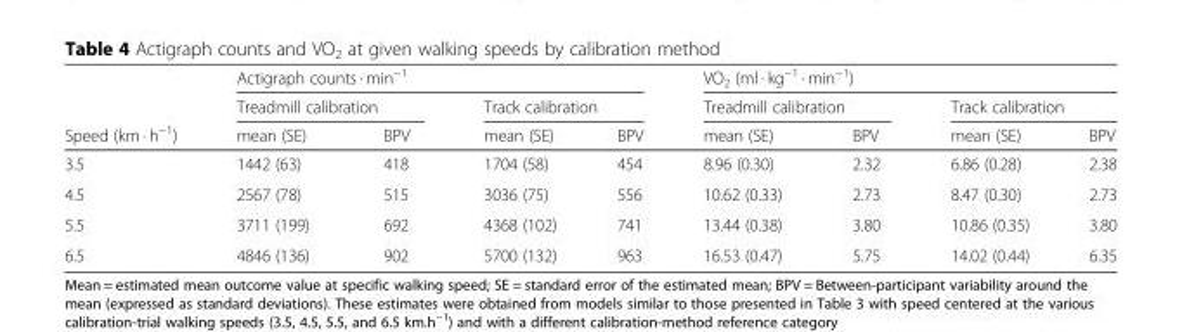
<table><thead><tr><td rowspan="3">Speed (km · h<sup>−1</sup>)</td><td colspan="4">Actigraph counts · min<sup>−1</sup></td><td colspan="4">VO<sub>2</sub> (ml · kg<sup>−1</sup> · min<sup>−1</sup>)</td></tr><tr><td colspan="2">Treadmill calibration</td><td colspan="2">Track calibration</td><td colspan="2">Treadmill calibration</td><td colspan="2">Track calibration</td></tr><tr><td>mean (SE)</td><td>BPV</td><td>mean (SE)</td><td>BPV</td><td>mean (SE)</td><td>BPV</td><td>mean (SE)</td><td>BPV</td></tr></thead><tbody><tr><td>3.5</td><td>1442 (63)</td><td>418</td><td>1704 (58)</td><td>454</td><td>8.96 (0.30)</td><td>2.32</td><td>6.86 (0.28)</td><td>2.38</td></tr><tr><td>4.5</td><td>2567 (78)</td><td>515</td><td>3036 (75)</td><td>556</td><td>10.62 (0.33)</td><td>2.73</td><td>8.47 (0.30)</td><td>2.73</td></tr><tr><td>5.5</td><td>3711 (199)</td><td>692</td><td>4368 (102)</td><td>741</td><td>13.44 (0.38)</td><td>3.80</td><td>10.86 (0.35)</td><td>3.80</td></tr><tr><td>6.5</td><td>4846 (136)</td><td>902</td><td>5700 (132)</td><td>963</td><td>16.53 (0.47)</td><td>5.75</td><td>14.02 (0.44)</td><td>6.35</td></tr></tbody></table>